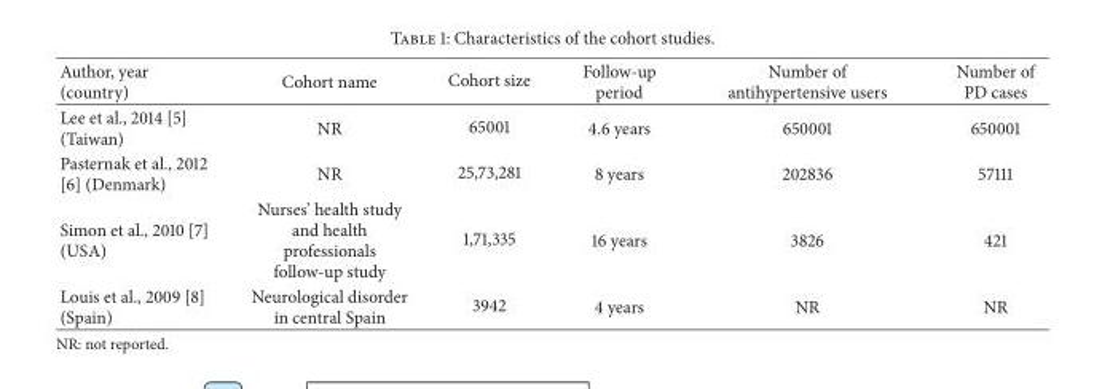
<table><thead><tr><td>Author, year (country)</td><td>Cohort name</td><td>Cohort size</td><td>Follow-up period</td><td>Number of antihypertensive users</td><td>Number of PD cases</td></tr></thead><tbody><tr><td>Lee et al., 2014 [5] (Taiwan)</td><td>NR</td><td>65001</td><td>4.6 years</td><td>650001</td><td>650001</td></tr><tr><td>Pasternak et al., 2012 [6] (Denmark)</td><td>NR</td><td>25,73,281</td><td>8 years</td><td>202836</td><td>57111</td></tr><tr><td>Simon et al., 2010 [7] (USA)</td><td>Nurses’ health study and health professionals follow-up study</td><td>1,71,335</td><td>16 years</td><td>3826</td><td>421</td></tr><tr><td>Louis et al., 2009 [8] (Spain)</td><td>Neurological disorder in central Spain</td><td>3942</td><td>4 years</td><td>NR</td><td>NR</td></tr></tbody></table>